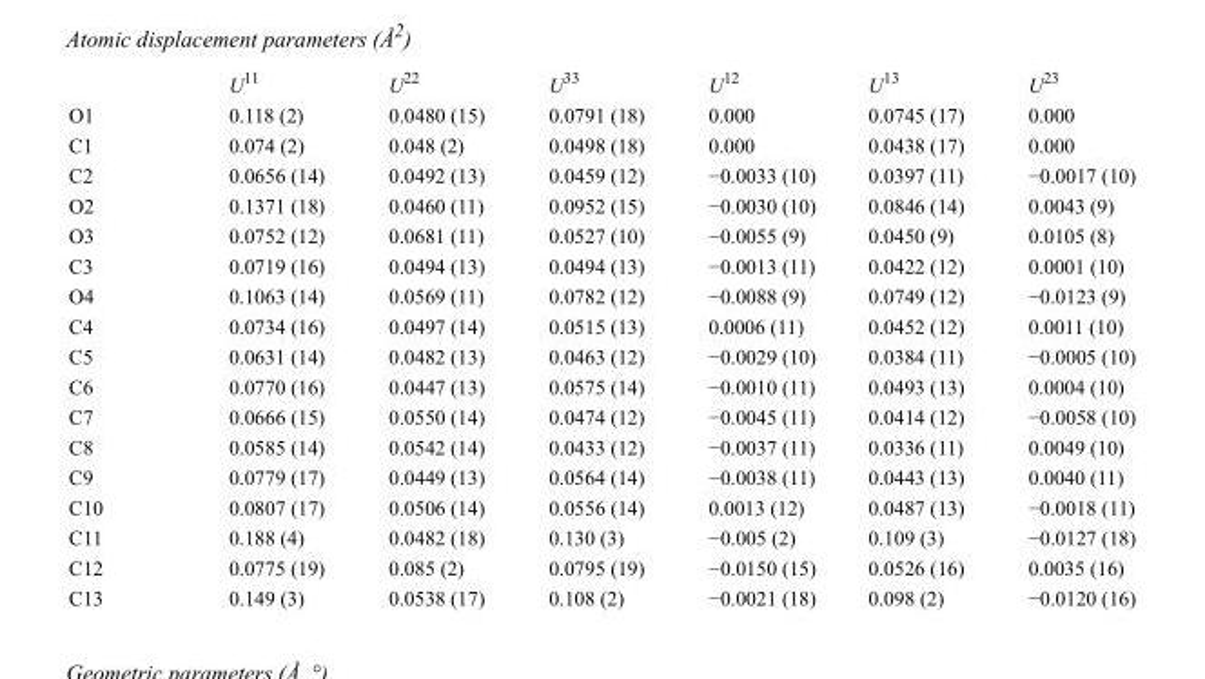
<table><thead><tr><td></td><td>U<sup>11</sup></td><td>U<sup>22</sup></td><td>U<sup>33</sup></td><td>U<sup>12</sup></td><td>U<sup>13</sup></td><td>U<sup>23</sup></td></tr></thead><tbody><tr><td>O1</td><td>0.118 (2)</td><td>0.0480 (15)</td><td>0.0791 (18)</td><td>0.000</td><td>0.0745 (17)</td><td>0.000</td></tr><tr><td>C1</td><td>0.074 (2)</td><td>0.048 (2)</td><td>0.0498 (18)</td><td>0.000</td><td>0.0438 (17)</td><td>0.000</td></tr><tr><td>C2</td><td>0.0656 (14)</td><td>0.0492 (13)</td><td>0.0459 (12)</td><td>−0.0033 (10)</td><td>0.0397 (11)</td><td>−0.0017 (10)</td></tr><tr><td>O2</td><td>0.1371 (18)</td><td>0.0460 (11)</td><td>0.0952 (15)</td><td>−0.0030 (10)</td><td>0.0846 (14)</td><td>0.0043 (9)</td></tr><tr><td>O3</td><td>0.0752 (12)</td><td>0.0681 (11)</td><td>0.0527 (10)</td><td>−0.0055 (9)</td><td>0.0450 (9)</td><td>0.0105 (8)</td></tr><tr><td>C3</td><td>0.0719 (16)</td><td>0.0494 (13)</td><td>0.0494 (13)</td><td>−0.0013 (11)</td><td>0.0422 (12)</td><td>0.0001 (10)</td></tr><tr><td>O4</td><td>0.1063 (14)</td><td>0.0569 (11)</td><td>0.0782 (12)</td><td>−0.0088 (9)</td><td>0.0749 (12)</td><td>−0.0123 (9)</td></tr><tr><td>C4</td><td>0.0734 (16)</td><td>0.0497 (14)</td><td>0.0515 (13)</td><td>0.0006 (11)</td><td>0.0452 (12)</td><td>0.0011 (10)</td></tr><tr><td>C5</td><td>0.0631 (14)</td><td>0.0482 (13)</td><td>0.0463 (12)</td><td>−0.0029 (10)</td><td>0.0384 (11)</td><td>−0.0005 (10)</td></tr><tr><td>C6</td><td>0.0770 (16)</td><td>0.0447 (13)</td><td>0.0575 (14)</td><td>−0.0010 (11)</td><td>0.0493 (13)</td><td>0.0004 (10)</td></tr><tr><td>C7</td><td>0.0666 (15)</td><td>0.0550 (14)</td><td>0.0474 (12)</td><td>−0.0045 (11)</td><td>0.0414 (12)</td><td>−0.0058 (10)</td></tr><tr><td>C8</td><td>0.0585 (14)</td><td>0.0542 (14)</td><td>0.0433 (12)</td><td>−0.0037 (11)</td><td>0.0336 (11)</td><td>0.0049 (10)</td></tr><tr><td>C9</td><td>0.0779 (17)</td><td>0.0449 (13)</td><td>0.0564 (14)</td><td>−0.0038 (11)</td><td>0.0443 (13)</td><td>0.0040 (11)</td></tr><tr><td>C10</td><td>0.0807 (17)</td><td>0.0506 (14)</td><td>0.0556 (14)</td><td>0.0013 (12)</td><td>0.0487 (13)</td><td>−0.0018 (11)</td></tr><tr><td>C11</td><td>0.188 (4)</td><td>0.0482 (18)</td><td>0.130 (3)</td><td>−0.005 (2)</td><td>0.109 (3)</td><td>−0.0127 (18)</td></tr><tr><td>C12</td><td>0.0775 (19)</td><td>0.085 (2)</td><td>0.0795 (19)</td><td>−0.0150 (15)</td><td>0.0526 (16)</td><td>0.0035 (16)</td></tr><tr><td>C13</td><td>0.149 (3)</td><td>0.0538 (17)</td><td>0.108 (2)</td><td>−0.0021 (18)</td><td>0.098 (2)</td><td>−0.0120 (16)</td></tr></tbody></table>